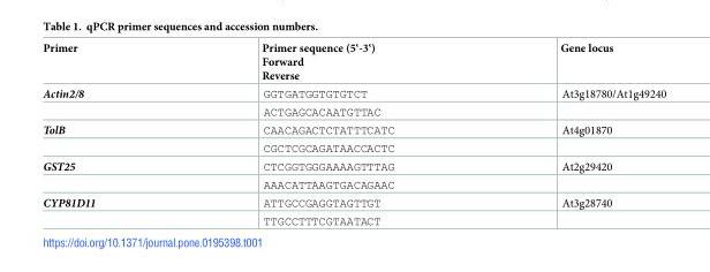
<table><thead><tr><td>Primer</td><td>Primer sequence (5‘-3‘) Forward Reverse</td><td>Gene locus</td></tr></thead><tbody><tr><td rowspan="2">Actin2/8</td><td>GGTGATGGTGTGTCT</td><td>At3g18780/At1g49240</td></tr><tr><td>ACTGAGCACAATGTTAC</td><td></td></tr><tr><td rowspan="2">TolB</td><td>CAACAGACTCTATTTCATC</td><td>At4g01870</td></tr><tr><td>CGCTCGCAGATAACCACTC</td><td></td></tr><tr><td rowspan="2">GST25</td><td>CTCGGTGGGAAAAGTTTAG</td><td>At2g29420</td></tr><tr><td>AAACATTAAGTGACAGAAC</td><td></td></tr><tr><td rowspan="2">CYP81D11</td><td>ATTGCCGAGGTAGTTGT</td><td>At3g28740</td></tr><tr><td>TTGCCTTTCGTAATACT</td><td></td></tr></tbody></table>